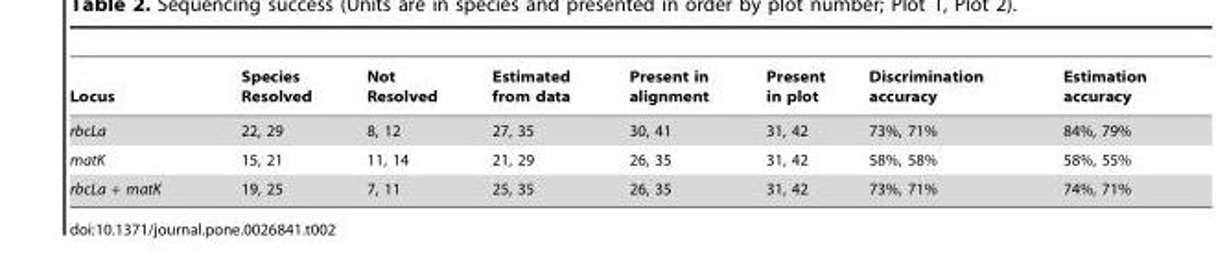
<table><thead><tr><td>Locus</td><td>Species Resolved</td><td>Not Resolved</td><td>Estimated from data</td><td>Present in alignment</td><td>Present in plot</td><td>Discrimination accuracy</td><td>Estimation accuracy</td></tr></thead><tbody><tr><td>rbcLa</td><td>22, 29</td><td>8, 12</td><td>27, 35</td><td>30, 41</td><td>31, 42</td><td>73%, 71%</td><td>84%, 79%</td></tr><tr><td>matK</td><td>15, 21</td><td>11, 14</td><td>21, 29</td><td>26, 35</td><td>31, 42</td><td>58%, 58%</td><td>58%, 55%</td></tr><tr><td>rbcLa + matK</td><td>19, 25</td><td>7, 11</td><td>25, 35</td><td>26, 35</td><td>31, 42</td><td>73%, 71%</td><td>74%, 71%</td></tr></tbody></table>